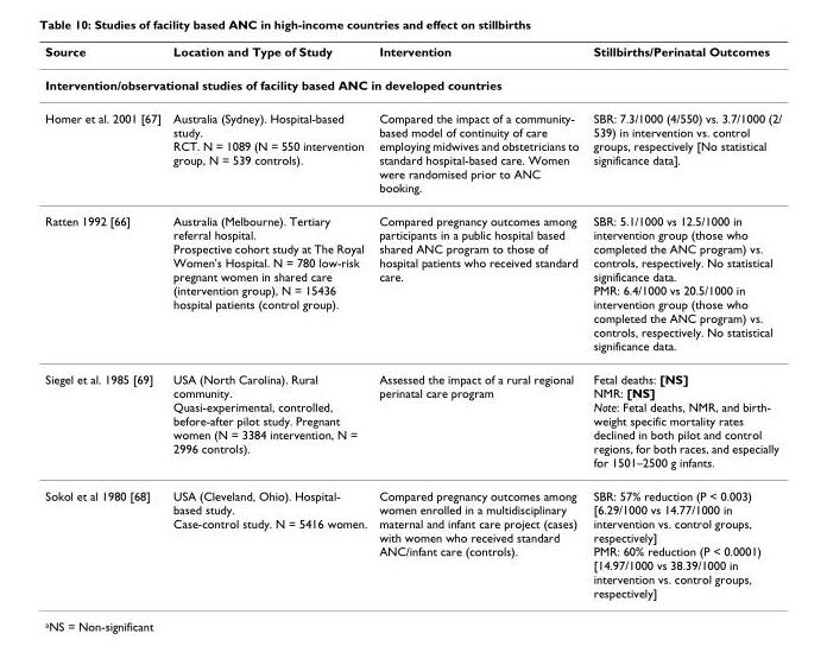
<table><thead><tr><td>Source</td><td>Location and Type of Study</td><td>Intervention</td><td>Stillbirths/Perinatal Outcomes</td></tr></thead><tbody><tr><td colspan="4">Intervention/observational studies of facility based ANC in developed countries</td></tr><tr><td>Homer et al. 2001 [67]</td><td>Australia (Sydney). Hospital-based study. RCT. N = 1089 (N = 550 intervention group, N = 539 controls).</td><td>Compared the impact of a community- based model of continuity of care employing midwives and obstetricians to standard hospital-based care. Women were randomised prior to ANC booking.</td><td>SBR: 7.3/1000 (4/550) vs. 3.7/1000 (2/ 539) in intervention vs. control groups, respectively [No statistical significance data].</td></tr><tr><td>Ratten 1992 [66]</td><td>Australia (Melbourne). Tertiary referral hospital. Prospective cohort study at The Royal Women&#x27;s Hospital. N = 780 low-risk pregnant women in shared care (intervention group), N = 15436 hospital patients (control group).</td><td>Compared pregnancy outcomes among participants in a public hospital based shared ANC program to those of hospital patients who received standard care.</td><td>SBR: 5.1/1000 vs 12.5/1000 in intervention group (those who completed the ANC program) vs. controls, respectively. No statistical significance data. PMR: 6.4/1000 vs 20.5/1000 in intervention group (those who completed the ANC program) vs. controls, respectively. No statistical significance data.</td></tr><tr><td>Siegel et al. 1985 [69]</td><td>USA (North Carolina). Rural community. Quasi-experimental, controlled, before-after pilot study. Pregnant women (N = 3384 intervention, N = 2996 controls).</td><td>Assessed the impact of a rural regional perinatal care program</td><td>Fetal deaths: [NS] NMR: [NS] Note: Fetal deaths, NMR, and birth- weight specific mortality rates declined in both pilot and control regions, for both races, and especially for 1501–2500 g infants.</td></tr><tr><td>Sokol et al 1980 [68]</td><td>USA (Cleveland, Ohio). Hospital- based study. Case-control study. N = 5416 women.</td><td>Compared pregnancy outcomes among women enrolled in a multidisciplinary maternal and infant care project (cases) with women who received standard ANC/infant care (controls).</td><td>SBR: 57% reduction (P &lt; 0.003) [6.29/1000 vs 14.77/1000 in intervention vs. control groups, respectively] PMR: 60% reduction (P &lt; 0.0001) [14.97/1000 vs 38.39/1000 in intervention vs. control groups, respectively]</td></tr></tbody></table>